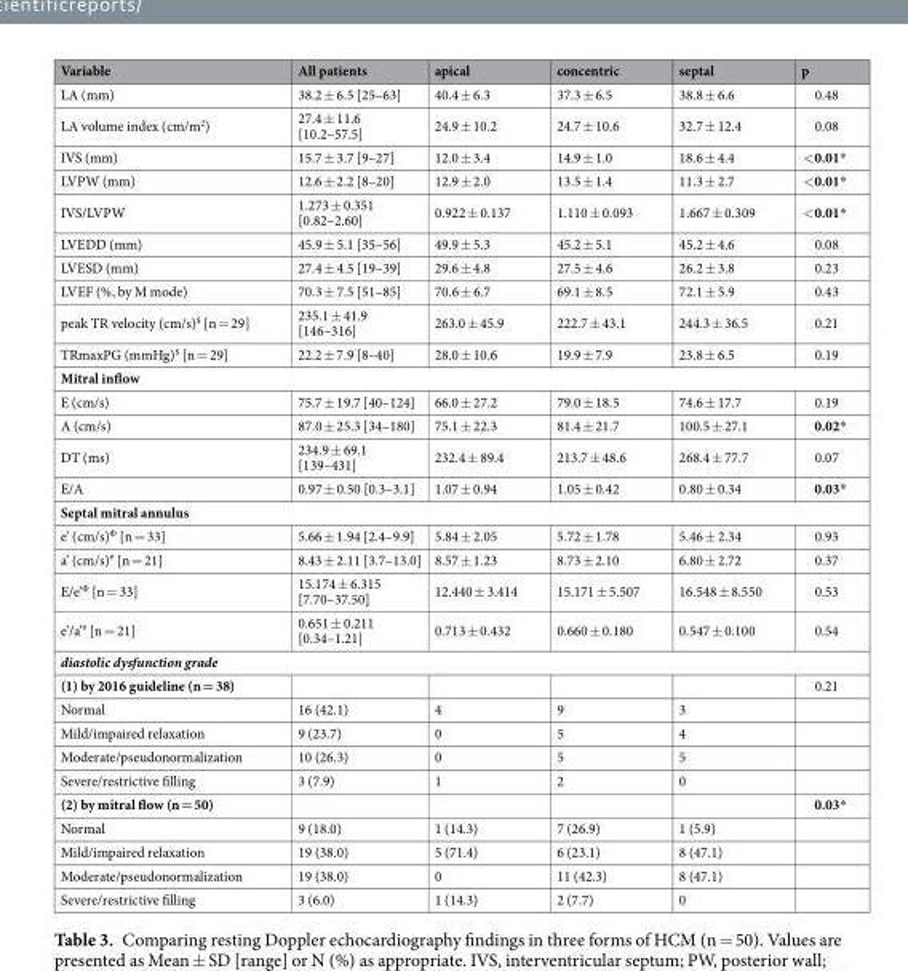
<table><thead><tr><td>Variable</td><td>All patients</td><td>apical</td><td>concentric</td><td>septal</td><td>p</td></tr></thead><tbody><tr><td>LA (mm)</td><td>38.2 ± 6.5 [25–63]</td><td>40.4 ± 6.3</td><td>37.3 ± 6.5</td><td>38.8 ± 6.6</td><td>0.48</td></tr><tr><td>LA volume index (cm/m<sup>2</sup>)</td><td>27.4 ± 11.6 [10.2–57.5]</td><td>24.9 ± 10.2</td><td>24.7 ± 10.6</td><td>32.7 ± 12.4</td><td>0.08</td></tr><tr><td>IVS (mm)</td><td>15.7 ± 3.7 [9–27]</td><td>12.0 ± 3.4</td><td>14.9 ± 1.0</td><td>18.6 ± 4.4</td><td>&lt;0.01*</td></tr><tr><td>LVPW (mm)</td><td>12.6 ± 2.2 [8–20]</td><td>12.9 ± 2.0</td><td>13.5 ± 1.4</td><td>11.3 ± 2.7</td><td>&lt;0.01*</td></tr><tr><td>IVS/LVPW</td><td>1.273 ± 0.351 [0.82–2.60]</td><td>0.922 ± 0.137</td><td>1.110 ± 0.093</td><td>1.667 ± 0.309</td><td>&lt;0.01*</td></tr><tr><td>LVEDD (mm)</td><td>45.9 ± 5.1 [35–56]</td><td>49.9 ± 5.3</td><td>45.2 ± 5.1</td><td>45.2 ± 4.6</td><td>0.08</td></tr><tr><td>LVESD (mm)</td><td>27.4 ± 4.5 [19–39]</td><td>29.6 ± 4.8</td><td>27.5 ± 4.6</td><td>26.2 ± 3.8</td><td>0.23</td></tr><tr><td>LVEF (%, by M mode)</td><td>70.3 ± 7.5 [51–85]</td><td>70.6 ± 6.7</td><td>69.1 ± 8.5</td><td>72.1 ± 5.9</td><td>0.43</td></tr><tr><td>peak TR velocity (cm/s)<sup>$</sup> [n = 29]</td><td>235.1 ± 41.9 [146–316]</td><td>263.0 ± 45.9</td><td>222.7 ± 43.1</td><td>244.3 ± 36.5</td><td>0.21</td></tr><tr><td>TRmaxPG (mmHg)<sup>$</sup> [n = 29]</td><td>22.2 ± 7.9 [8–40]</td><td>28.0 ± 10.6</td><td>19.9 ± 7.9</td><td>23.8 ± 6.5</td><td>0.19</td></tr><tr><td colspan="6">Mitral inflow</td></tr><tr><td>E (cm/s)</td><td>75.7 ± 19.7 [40–124]</td><td>66.0 ± 27.2</td><td>79.0 ± 18.5</td><td>74.6 ± 17.7</td><td>0.19</td></tr><tr><td>A (cm/s)</td><td>87.0 ± 25.3 [34–180]</td><td>75.1 ± 22.3</td><td>81.4 ± 21.7</td><td>100.5 ± 27.1</td><td>0.02*</td></tr><tr><td>DT (ms)</td><td>234.9 ± 69.1 [139–431]</td><td>232.4 ± 89.4</td><td>213.7 ± 48.6</td><td>268.4 ± 77.7</td><td>0.07</td></tr><tr><td>E/A</td><td>0.97 ± 0.50 [0.3–3.1]</td><td>1.07 ± 0.94</td><td>1.05 ± 0.42</td><td>0.80 ± 0.34</td><td>0.03*</td></tr><tr><td colspan="6">Septal mitral annulus</td></tr><tr><td>e’ (cm/s)<sup>Φ</sup> [n = 33]</td><td>5.66 ± 1.94 [2.4–9.9]</td><td>5.84 ± 2.05</td><td>5.72 ± 1.78</td><td>5.46 ± 2.34</td><td>0.93</td></tr><tr><td>a’ (cm/s)<sup>#</sup> [n = 21]</td><td>8.43 ± 2.11 [3.7–13.0]</td><td>8.57 ± 1.23</td><td>8.73 ± 2.10</td><td>6.80 ± 2.72</td><td>0.37</td></tr><tr><td>E/e’<sup>Φ</sup> [n = 33]</td><td>15.174 ± 6.315 [7.70–37.50]</td><td>12.440 ± 3.414</td><td>15.171 ± 5.507</td><td>16.548 ± 8.550</td><td>0.53</td></tr><tr><td>e’/a’<sup>#</sup> [n = 21]</td><td>0.651 ± 0.211 [0.34–1.21]</td><td>0.713 ± 0.432</td><td>0.660 ± 0.180</td><td>0.547 ± 0.100</td><td>0.54</td></tr><tr><td colspan="6">diastolic dysfunction grade</td></tr><tr><td>(1) by 2016 guideline (n = 38)</td><td></td><td></td><td></td><td></td><td>0.21</td></tr><tr><td>Normal</td><td>16 (42.1)</td><td>4</td><td>9</td><td>3</td><td></td></tr><tr><td>Mild/impaired relaxation</td><td>9 (23.7)</td><td>0</td><td>5</td><td>4</td><td></td></tr><tr><td>Moderate/pseudonormalization</td><td>10 (26.3)</td><td>0</td><td>5</td><td>5</td><td></td></tr><tr><td>Severe/restrictive filling</td><td>3 (7.9)</td><td>1</td><td>2</td><td>0</td><td></td></tr><tr><td>(2) by mitral flow (n = 50)</td><td></td><td></td><td></td><td></td><td>0.03*</td></tr><tr><td>Normal</td><td>9 (18.0)</td><td>1 (14.3)</td><td>7 (26.9)</td><td>1 (5.9)</td><td></td></tr><tr><td>Mild/impaired relaxation</td><td>19 (38.0)</td><td>5 (71.4)</td><td>6 (23.1)</td><td>8 (47.1)</td><td></td></tr><tr><td>Moderate/pseudonormalization</td><td>19 (38.0)</td><td>0</td><td>11 (42.3)</td><td>8 (47.1)</td><td></td></tr><tr><td>Severe/restrictive filling</td><td>3 (6.0)</td><td>1 (14.3)</td><td>2 (7.7)</td><td>0</td><td></td></tr></tbody></table>